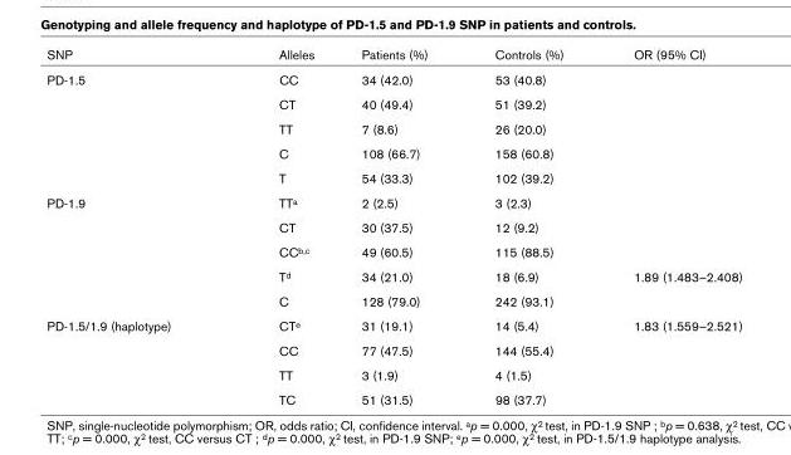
<table><thead><tr><td>SNP</td><td>Alleles</td><td>Patients (%)</td><td>Controls (%)</td><td>OR (95% CI)</td></tr></thead><tbody><tr><td rowspan="5">PD-1.5</td><td>CC</td><td>34 (42.0)</td><td>53 (40.8)</td><td></td></tr><tr><td>CT</td><td>40 (49.4)</td><td>51 (39.2)</td><td></td></tr><tr><td>TT</td><td>7 (8.6)</td><td>26 (20.0)</td><td></td></tr><tr><td>C</td><td>108 (66.7)</td><td>158 (60.8)</td><td></td></tr><tr><td>T</td><td>54 (33.3)</td><td>102 (39.2)</td><td></td></tr><tr><td rowspan="5">PD-1.9</td><td>TTa</td><td>2 (2.5)</td><td>3 (2.3)</td><td></td></tr><tr><td>CT</td><td>30 (37.5)</td><td>12 (9.2)</td><td></td></tr><tr><td>CCb,c</td><td>49 (60.5)</td><td>115 (88.5)</td><td></td></tr><tr><td>Td</td><td>34 (21.0)</td><td>18 (6.9)</td><td>1.89 (1.483–2.408)</td></tr><tr><td>C</td><td>128 (79.0)</td><td>242 (93.1)</td><td></td></tr><tr><td rowspan="4">PD-1.5/1.9 (haplotype)</td><td>CTe</td><td>31 (19.1)</td><td>14 (5.4)</td><td>1.83 (1.559–2.521)</td></tr><tr><td>CC</td><td>77 (47.5)</td><td>144 (55.4)</td><td></td></tr><tr><td>TT</td><td>3 (1.9)</td><td>4 (1.5)</td><td></td></tr><tr><td>TC</td><td>51 (31.5)</td><td>98 (37.7)</td><td></td></tr></tbody></table>